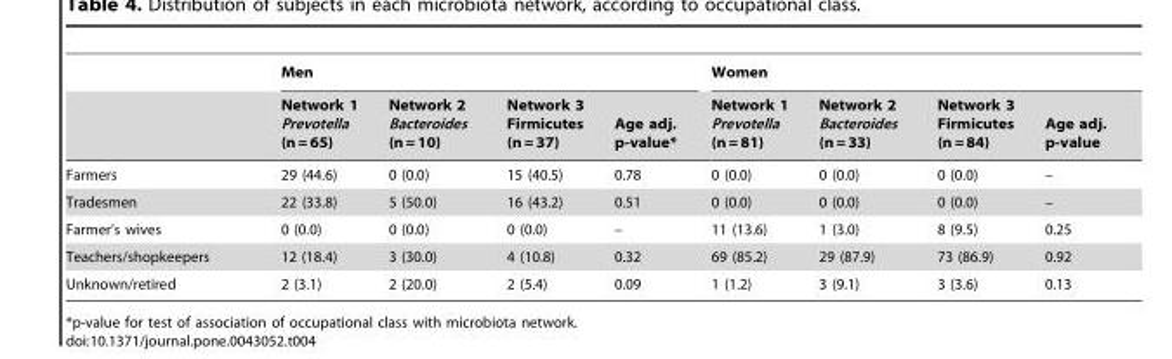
<table><thead><tr><td rowspan="2"></td><td colspan="4">Men</td><td colspan="4">Women</td></tr><tr><td>Network 1 Prevotella (n = 65)</td><td>Network 2 Bacteroides (n = 10)</td><td>Network 3 Firmicutes (n = 37)</td><td>Age adj. p-value*</td><td>Network 1 Prevotella (n = 81)</td><td>Network 2 Bacteroides (n = 33)</td><td>Network 3 Firmicutes (n = 84)</td><td>Age adj. p-value</td></tr></thead><tbody><tr><td>Farmers</td><td>29 (44.6)</td><td>0 (0.0)</td><td>15 (40.5)</td><td>0.78</td><td>0 (0.0)</td><td>0 (0.0)</td><td>0 (0.0)</td><td>–</td></tr><tr><td>Tradesmen</td><td>22 (33.8)</td><td>5 (50.0)</td><td>16 (43.2)</td><td>0.51</td><td>0 (0.0)</td><td>0 (0.0)</td><td>0 (0.0)</td><td>–</td></tr><tr><td>Farmer’s wives</td><td>0 (0.0)</td><td>0 (0.0)</td><td>0 (0.0)</td><td>–</td><td>11 (13.6)</td><td>1 (3.0)</td><td>8 (9.5)</td><td>0.25</td></tr><tr><td>Teachers/shopkeepers</td><td>12 (18.4)</td><td>3 (30.0)</td><td>4 (10.8)</td><td>0.32</td><td>69 (85.2)</td><td>29 (87.9)</td><td>73 (86.9)</td><td>0.92</td></tr><tr><td>Unknown/retired</td><td>2 (3.1)</td><td>2 (20.0)</td><td>2 (5.4)</td><td>0.09</td><td>1 (1.2)</td><td>3 (9.1)</td><td>3 (3.6)</td><td>0.13</td></tr></tbody></table>